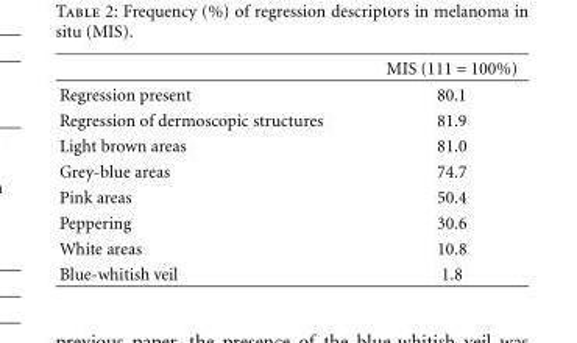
<table><thead><tr><td></td><td>MIS (111 = 100%)</td></tr></thead><tbody><tr><td>Regression present</td><td>80.1</td></tr><tr><td>Regression of dermoscopic structures</td><td>81.9</td></tr><tr><td>Light brown areas</td><td>81.0</td></tr><tr><td>Grey-blue areas</td><td>74.7</td></tr><tr><td>Pink areas</td><td>50.4</td></tr><tr><td>Peppering</td><td>30.6</td></tr><tr><td>White areas</td><td>10.8</td></tr><tr><td>Blue-whitish veil</td><td>1.8</td></tr></tbody></table>